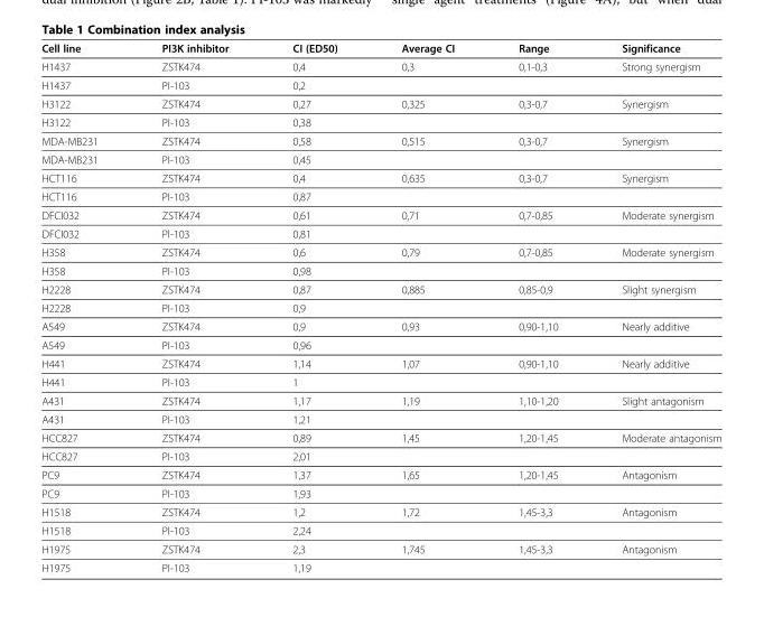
<table><thead><tr><td>Cell line</td><td>PI3K inhibitor</td><td>CI (ED50)</td><td>Average CI</td><td>Range</td><td>Significance</td></tr></thead><tbody><tr><td>H1437</td><td>ZSTK474</td><td>0,4</td><td>0,3</td><td>0,1-0,3</td><td>Strong synergism</td></tr><tr><td>H1437</td><td>PI-103</td><td>0,2</td><td></td><td></td><td></td></tr><tr><td>H3122</td><td>ZSTK474</td><td>0,27</td><td>0,325</td><td>0,3-0,7</td><td>Synergism</td></tr><tr><td>H3122</td><td>PI-103</td><td>0,38</td><td></td><td></td><td></td></tr><tr><td>MDA-MB231</td><td>ZSTK474</td><td>0,58</td><td>0,515</td><td>0,3-0,7</td><td>Synergism</td></tr><tr><td>MDA-MB231</td><td>PI-103</td><td>0,45</td><td></td><td></td><td></td></tr><tr><td>HCT116</td><td>ZSTK474</td><td>0,4</td><td>0,635</td><td>0,3-0,7</td><td>Synergism</td></tr><tr><td>HCT116</td><td>PI-103</td><td>0,87</td><td></td><td></td><td></td></tr><tr><td>DFCI032</td><td>ZSTK474</td><td>0,61</td><td>0,71</td><td>0,7-0,85</td><td>Moderate synergism</td></tr><tr><td>DFCI032</td><td>PI-103</td><td>0,81</td><td></td><td></td><td></td></tr><tr><td>H358</td><td>ZSTK474</td><td>0,6</td><td>0,79</td><td>0,7-0,85</td><td>Moderate synergism</td></tr><tr><td>H358</td><td>PI-103</td><td>0,98</td><td></td><td></td><td></td></tr><tr><td>H2228</td><td>ZSTK474</td><td>0,87</td><td>0,885</td><td>0,85-0,9</td><td>Slight synergism</td></tr><tr><td>H2228</td><td>PI-103</td><td>0,9</td><td></td><td></td><td></td></tr><tr><td>A549</td><td>ZSTK474</td><td>0,9</td><td>0,93</td><td>0,90-1,10</td><td>Nearly additive</td></tr><tr><td>A549</td><td>PI-103</td><td>0,96</td><td></td><td></td><td></td></tr><tr><td>H441</td><td>ZSTK474</td><td>1,14</td><td>1,07</td><td>0,90-1,10</td><td>Nearly additive</td></tr><tr><td>H441</td><td>PI-103</td><td>1</td><td></td><td></td><td></td></tr><tr><td>A431</td><td>ZSTK474</td><td>1,17</td><td>1,19</td><td>1,10-1,20</td><td>Slight antagonism</td></tr><tr><td>A431</td><td>PI-103</td><td>1,21</td><td></td><td></td><td></td></tr><tr><td>HCC827</td><td>ZSTK474</td><td>0,89</td><td>1,45</td><td>1,20-1,45</td><td>Moderate antagonism</td></tr><tr><td>HCC827</td><td>PI-103</td><td>2,01</td><td></td><td></td><td></td></tr><tr><td>PC9</td><td>ZSTK474</td><td>1,37</td><td>1,65</td><td>1,20-1,45</td><td>Antagonism</td></tr><tr><td>PC9</td><td>PI-103</td><td>1,93</td><td></td><td></td><td></td></tr><tr><td>H1518</td><td>ZSTK474</td><td>1,2</td><td>1,72</td><td>1,45-3,3</td><td>Antagonism</td></tr><tr><td>H1518</td><td>PI-103</td><td>2,24</td><td></td><td></td><td></td></tr><tr><td>H1975</td><td>ZSTK474</td><td>2,3</td><td>1,745</td><td>1,45-3,3</td><td>Antagonism</td></tr><tr><td>H1975</td><td>PI-103</td><td>1,19</td><td></td><td></td><td></td></tr></tbody></table>